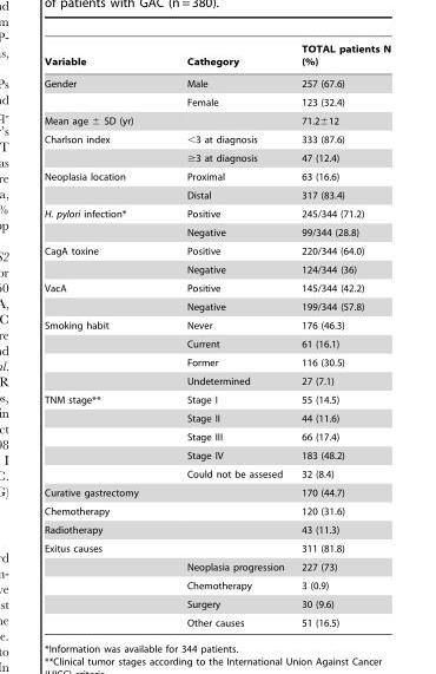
<table><thead><tr><td>Variable</td><td>Cathegory</td><td>TOTAL patients N (%)</td></tr></thead><tbody><tr><td rowspan="2">Gender</td><td>Male</td><td>257 (67.6)</td></tr><tr><td>Female</td><td>123 (32.4)</td></tr><tr><td>Mean age ± SD (yr)</td><td></td><td>71.2±12</td></tr><tr><td rowspan="2">Charlson index</td><td>&lt;3 at diagnosis</td><td>333 (87.6)</td></tr><tr><td>≥3 at diagnosis</td><td>47 (12.4)</td></tr><tr><td rowspan="2">Neoplasia location</td><td>Proximal</td><td>63 (16.6)</td></tr><tr><td>Distal</td><td>317 (83.4)</td></tr><tr><td rowspan="2">H. pylori infection*</td><td>Positive</td><td>245/344 (71.2)</td></tr><tr><td>Negative</td><td>99/344 (28.8)</td></tr><tr><td rowspan="2">CagA toxine</td><td>Positive</td><td>220/344 (64.0)</td></tr><tr><td>Negative</td><td>124/344 (36)</td></tr><tr><td rowspan="2">VacA</td><td>Positive</td><td>145/344 (42.2)</td></tr><tr><td>Negative</td><td>199/344 (57.8)</td></tr><tr><td rowspan="4">Smoking habit</td><td>Never</td><td>176 (46.3)</td></tr><tr><td>Current</td><td>61 (16.1)</td></tr><tr><td>Former</td><td>116 (30.5)</td></tr><tr><td>Undetermined</td><td>27 (7.1)</td></tr><tr><td rowspan="5">TNM stage**</td><td>Stage I</td><td>55 (14.5)</td></tr><tr><td>Stage II</td><td>44 (11.6)</td></tr><tr><td>Stage III</td><td>66 (17.4)</td></tr><tr><td>Stage IV</td><td>183 (48.2)</td></tr><tr><td>Could not be assesed</td><td>32 (8.4)</td></tr><tr><td>Curative gastrectomy</td><td></td><td>170 (44.7)</td></tr><tr><td>Chemotherapy</td><td></td><td>120 (31.6)</td></tr><tr><td>Radiotherapy</td><td></td><td>43 (11.3)</td></tr><tr><td rowspan="5">Exitus causes</td><td></td><td>311 (81.8)</td></tr><tr><td>Neoplasia progression</td><td>227 (73)</td></tr><tr><td>Chemotherapy</td><td>3 (0.9)</td></tr><tr><td>Surgery</td><td>30 (9.6)</td></tr><tr><td>Other causes</td><td>51 (16.5)</td></tr></tbody></table>